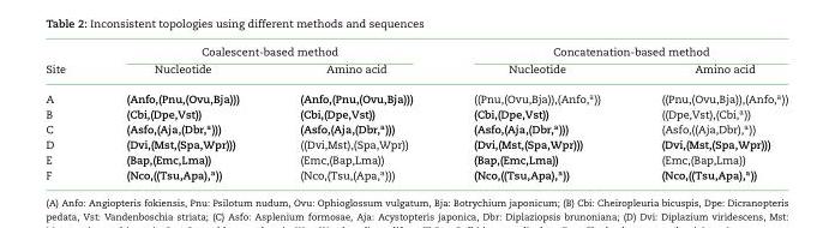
<table><thead><tr><td rowspan="2">Site</td><td colspan="2">Coalescent-based method</td><td colspan="2">Concatenation-based method</td></tr><tr><td>Nucleotide</td><td>Amino acid</td><td>Nucleotide</td><td>Amino acid</td></tr></thead><tbody><tr><td>A</td><td>(Anfo,(Pnu,(Ovu,Bja)))</td><td>(Anfo,(Pnu,(Ovu,Bja)))</td><td>((Pnu,(Ovu,Bja)),(Anfo,<sup>a</sup>))</td><td>((Pnu,(Ovu,Bja)),(Anfo,<sup>a</sup>))</td></tr><tr><td>B</td><td>(Cbi,(Dpe,Vst))</td><td>(Cbi,(Dpe,Vst))</td><td>(Cbi,(Dpe,Vst))</td><td>((Dpe,Vst),(Cbi,<sup>a</sup>))</td></tr><tr><td>C</td><td>(Asfo,(Aja,(Dbr,<sup>a</sup>)))</td><td>(Asfo,(Aja,(Dbr,<sup>a</sup>)))</td><td>(Asfo,(Aja,(Dbr,<sup>a</sup>)))</td><td>(Asfo,((Aja,Dbr),<sup>a</sup>))</td></tr><tr><td>D</td><td>(Dvi,(Mst,(Spa,Wpr)))</td><td>((Dvi,Mst),(Spa,Wpr))</td><td>(Dvi,(Mst,(Spa,Wpr)))</td><td>(Dvi,(Mst,(Spa,Wpr)))</td></tr><tr><td>E</td><td>(Bap,(Emc,Lma))</td><td>(Emc,(Bap,Lma))</td><td>(Bap,(Emc,Lma))</td><td>(Emc,(Bap,Lma))</td></tr><tr><td>F</td><td>(Nco,((Tsu,Apa),<sup>a</sup>))</td><td>(Nco,(Tsu,(Apa,<sup>a</sup>)))</td><td>(Nco,((Tsu,Apa),<sup>a</sup>))</td><td>(Nco,((Tsu,Apa),<sup>a</sup>))</td></tr></tbody></table>